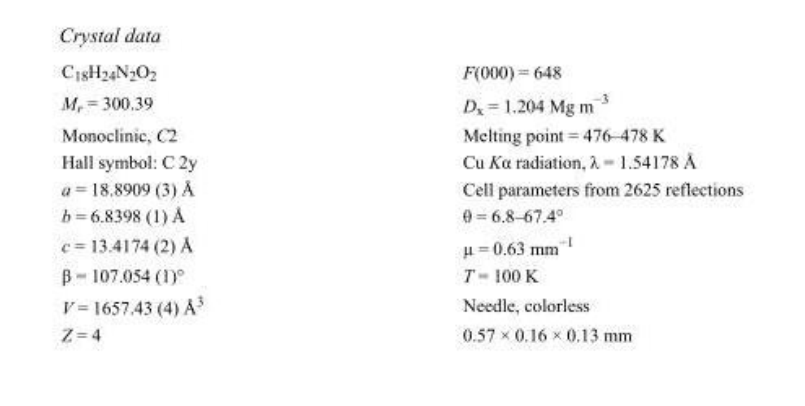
<table><tbody><tr><td>C<sub>18</sub>H<sub>24</sub>N<sub>2</sub>O<sub>2</sub></td><td>F(000) = 648</td></tr><tr><td>M<sub>r</sub> = 300.39</td><td>D<sub>x</sub> = 1.204 Mg m<sup>−3</sup></td></tr><tr><td>Monoclinic, C2</td><td>Melting point = 476–478 K</td></tr><tr><td>Hall symbol: C 2y</td><td>Cu Kα radiation, λ = 1.54178 Å</td></tr><tr><td>a = 18.8909 (3) Å</td><td>Cell parameters from 2625 reflections</td></tr><tr><td>b = 6.8398 (1) Å</td><td>θ = 6.8–67.4°</td></tr><tr><td>c = 13.4174 (2) Å</td><td>µ = 0.63 mm<sup>−1</sup></td></tr><tr><td>β = 107.054 (1)°</td><td>T = 100 K</td></tr><tr><td>V = 1657.43 (4) Å<sup>3</sup></td><td>Needle, colorless</td></tr><tr><td>Z = 4</td><td>0.57 × 0.16 × 0.13 mm</td></tr></tbody></table>